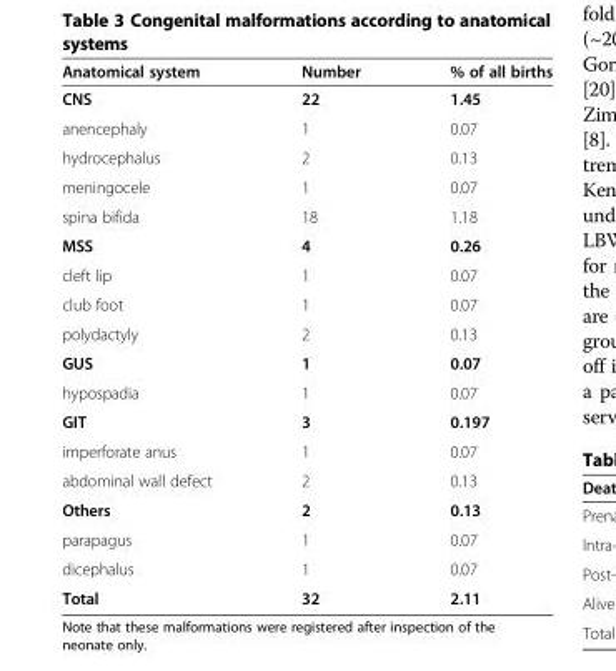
<table><thead><tr><td>Anatomical system</td><td>Number</td><td>% of all births</td></tr></thead><tbody><tr><td>CNS</td><td>22</td><td>1.45</td></tr><tr><td>anencephaly</td><td>1</td><td>0.07</td></tr><tr><td>hydrocephalus</td><td>2</td><td>0.13</td></tr><tr><td>meningocele</td><td>1</td><td>0.07</td></tr><tr><td>spina bifida</td><td>18</td><td>1.18</td></tr><tr><td>MSS</td><td>4</td><td>0.26</td></tr><tr><td>cleft lip</td><td>1</td><td>0.07</td></tr><tr><td>club foot</td><td>1</td><td>0.07</td></tr><tr><td>polydactyly</td><td>2</td><td>0.13</td></tr><tr><td>GUS</td><td>1</td><td>0.07</td></tr><tr><td>hypospadia</td><td>1</td><td>0.07</td></tr><tr><td>GIT</td><td>3</td><td>0.197</td></tr><tr><td>imperforate anus</td><td>1</td><td>0.07</td></tr><tr><td>abdominal wall defect</td><td>2</td><td>0.13</td></tr><tr><td>Others</td><td>2</td><td>0.13</td></tr><tr><td>parapagus</td><td>1</td><td>0.07</td></tr><tr><td>dicephalus</td><td>1</td><td>0.07</td></tr><tr><td>Total</td><td>32</td><td>2.11</td></tr></tbody></table>